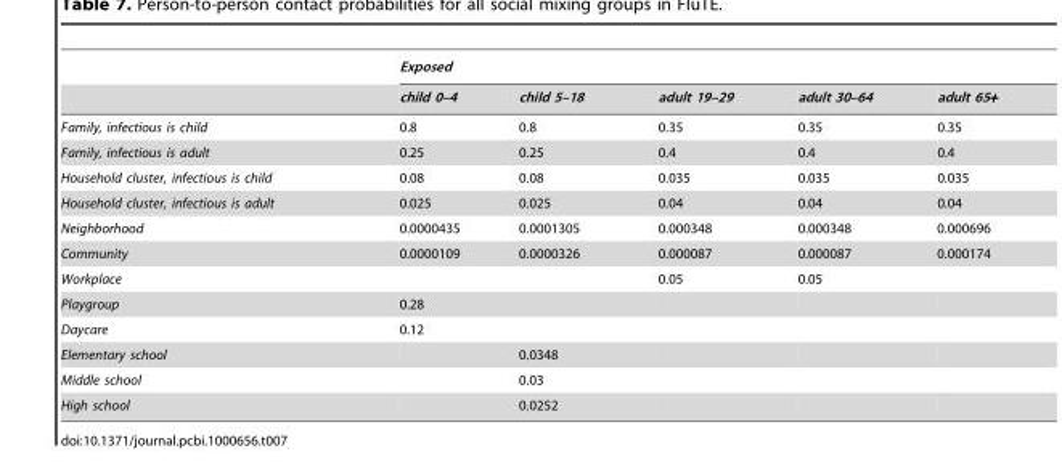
<table><thead><tr><td rowspan="2"></td><td colspan="5">Exposed</td></tr><tr><td>child 0–4</td><td>child 5–18</td><td>adult 19–29</td><td>adult 30–64</td><td>adult 65+</td></tr></thead><tbody><tr><td>Family, infectious is child</td><td>0.8</td><td>0.8</td><td>0.35</td><td>0.35</td><td>0.35</td></tr><tr><td>Family, infectious is adult</td><td>0.25</td><td>0.25</td><td>0.4</td><td>0.4</td><td>0.4</td></tr><tr><td>Household cluster, infectious is child</td><td>0.08</td><td>0.08</td><td>0.035</td><td>0.035</td><td>0.035</td></tr><tr><td>Household cluster, infectious is adult</td><td>0.025</td><td>0.025</td><td>0.04</td><td>0.04</td><td>0.04</td></tr><tr><td>Neighborhood</td><td>0.0000435</td><td>0.0001305</td><td>0.000348</td><td>0.000348</td><td>0.000696</td></tr><tr><td>Community</td><td>0.0000109</td><td>0.0000326</td><td>0.000087</td><td>0.000087</td><td>0.000174</td></tr><tr><td>Workplace</td><td></td><td></td><td>0.05</td><td>0.05</td><td></td></tr><tr><td>Playgroup</td><td>0.28</td><td></td><td></td><td></td><td></td></tr><tr><td>Daycare</td><td>0.12</td><td></td><td></td><td></td><td></td></tr><tr><td>Elementary school</td><td></td><td>0.0348</td><td></td><td></td><td></td></tr><tr><td>Middle school</td><td></td><td>0.03</td><td></td><td></td><td></td></tr><tr><td>High school</td><td></td><td>0.0252</td><td></td><td></td><td></td></tr></tbody></table>